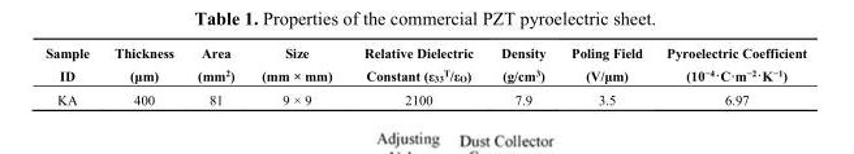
<table><thead><tr><td>Sample ID</td><td>Thickness (μm)</td><td>Area (mm<sup>2</sup>)</td><td>Size (mm × mm)</td><td>Relative Dielectric Constant (ε<sub>33</sub><sup>T</sup>/ε<sub>O</sub>)</td><td>Density (g/cm<sup>3</sup>)</td><td>Poling Field (V/μm)</td><td>Pyroelectric Coefficient (10<sup>−4</sup>·C·m<sup>−2</sup>·K<sup>−1</sup>)</td></tr></thead><tbody><tr><td>KA</td><td>400</td><td>81</td><td>9 × 9</td><td>2100</td><td>7.9</td><td>3.5</td><td>6.97</td></tr></tbody></table>